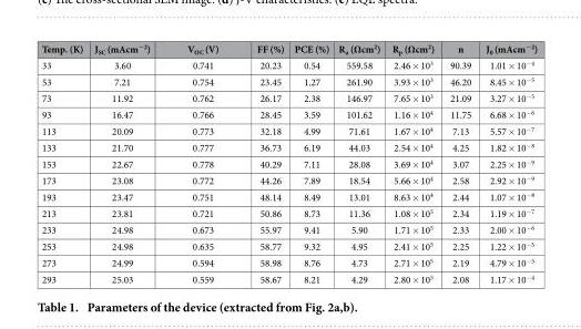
<table><thead><tr><td>Temp. (K)</td><td>J<sub>SC</sub> (mAcm<sup>−2</sup>)</td><td>V<sub>OC</sub> (V)</td><td>FF (%)</td><td>PCE (%)</td><td>R<sub>a</sub> (Ωcm<sup>2</sup>)</td><td>R<sub>p</sub> (Ωcm<sup>2</sup>)</td><td>n</td><td>J<sub>0</sub> (mAcm<sup>−2</sup>)</td></tr></thead><tbody><tr><td>33</td><td>3.60</td><td>0.741</td><td>20.23</td><td>0.54</td><td>559.58</td><td>2.46 × 10<sup>3</sup></td><td>90.39</td><td>1.01 × 10<sup>−4</sup></td></tr><tr><td>53</td><td>7.21</td><td>0.754</td><td>23.45</td><td>1.27</td><td>261.90</td><td>3.93 × 10<sup>3</sup></td><td>46.20</td><td>8.45 × 10<sup>−5</sup></td></tr><tr><td>73</td><td>11.92</td><td>0.762</td><td>26.17</td><td>2.38</td><td>146.97</td><td>7.65 × 10<sup>3</sup></td><td>21.09</td><td>3.27 × 10<sup>−5</sup></td></tr><tr><td>93</td><td>16.47</td><td>0.766</td><td>28.45</td><td>3.59</td><td>101.62</td><td>1.16 × 10<sup>4</sup></td><td>11.75</td><td>6.68 × 10<sup>−6</sup></td></tr><tr><td>113</td><td>20.09</td><td>0.773</td><td>32.18</td><td>4.99</td><td>71.61</td><td>1.67 × 10<sup>4</sup></td><td>7.13</td><td>5.57 × 10<sup>−7</sup></td></tr><tr><td>133</td><td>21.70</td><td>0.777</td><td>36.73</td><td>6.19</td><td>44.03</td><td>2.54 × 10<sup>4</sup></td><td>4.25</td><td>1.82 × 10<sup>−8</sup></td></tr><tr><td>153</td><td>22.67</td><td>0.778</td><td>40.29</td><td>7.11</td><td>28.08</td><td>3.69 × 10<sup>4</sup></td><td>3.07</td><td>2.25 × 10<sup>−9</sup></td></tr><tr><td>173</td><td>23.08</td><td>0.772</td><td>44.26</td><td>7.89</td><td>18.54</td><td>5.66 × 10<sup>4</sup></td><td>2.58</td><td>2.92 × 10<sup>−9</sup></td></tr><tr><td>193</td><td>23.47</td><td>0.751</td><td>48.14</td><td>8.49</td><td>13.01</td><td>8.63 × 10<sup>4</sup></td><td>2.44</td><td>1.07 × 10<sup>−8</sup></td></tr><tr><td>213</td><td>23.81</td><td>0.721</td><td>50.86</td><td>8.73</td><td>11.36</td><td>1.08 × 10<sup>5</sup></td><td>2.34</td><td>1.19 × 10<sup>−7</sup></td></tr><tr><td>233</td><td>24.98</td><td>0.673</td><td>55.97</td><td>9.41</td><td>5.90</td><td>1.71 × 10<sup>5</sup></td><td>2.33</td><td>2.00 × 10<sup>−6</sup></td></tr><tr><td>253</td><td>24.98</td><td>0.635</td><td>58.77</td><td>9.32</td><td>4.95</td><td>2.41 × 10<sup>5</sup></td><td>2.25</td><td>1.22 × 10<sup>−5</sup></td></tr><tr><td>273</td><td>24.99</td><td>0.594</td><td>58.98</td><td>8.76</td><td>4.73</td><td>2.71 × 10<sup>5</sup></td><td>2.19</td><td>4.79 × 10<sup>−5</sup></td></tr><tr><td>293</td><td>25.03</td><td>0.559</td><td>58.67</td><td>8.21</td><td>4.29</td><td>2.80 × 10<sup>5</sup></td><td>2.08</td><td>1.17 × 10<sup>−4</sup></td></tr></tbody></table>